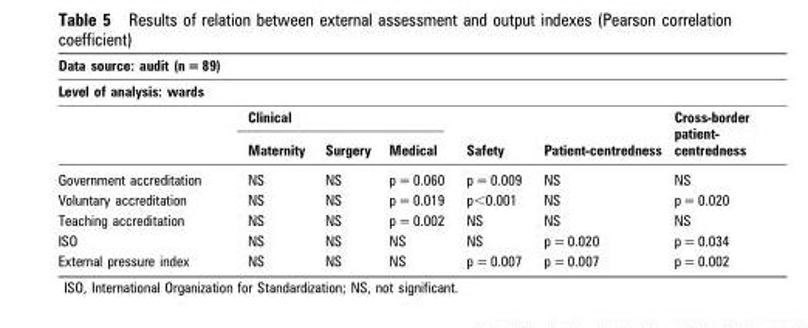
<table><thead><tr><td rowspan="2" colspan="7">Data source: audit (n = 89) Level of analysis: wards</td></tr><tr></tr><tr><td rowspan="2"></td><td colspan="3">Clinical</td><td rowspan="2">Safety</td><td rowspan="2">Patient-centredness</td><td rowspan="2">Cross-border patient- centredness</td></tr><tr><td>Maternity</td><td>Surgery</td><td>Medical</td></tr></thead><tbody><tr><td>Government accreditation</td><td>NS</td><td>NS</td><td>p = 0.060</td><td>p = 0.009</td><td>NS</td><td>NS</td></tr><tr><td>Voluntary accreditation</td><td>NS</td><td>NS</td><td>p = 0.019</td><td>p&lt;0.001</td><td>NS</td><td>p = 0.020</td></tr><tr><td>Teaching accreditation</td><td>NS</td><td>NS</td><td>p = 0.002</td><td>NS</td><td>NS</td><td>NS</td></tr><tr><td>ISO</td><td>NS</td><td>NS</td><td>NS</td><td>NS</td><td>p = 0.020</td><td>p = 0.034</td></tr><tr><td>External pressure index</td><td>NS</td><td>NS</td><td>NS</td><td>p = 0.007</td><td>p = 0.007</td><td>p = 0.002</td></tr></tbody></table>